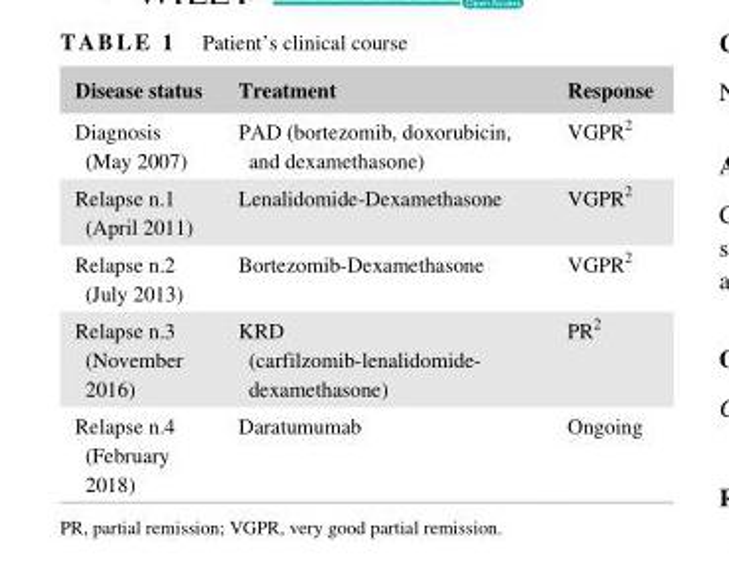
<table><thead><tr><td>Disease status</td><td>Treatment</td><td>Response</td></tr></thead><tbody><tr><td>Diagnosis (May 2007)</td><td>PAD (bortezomib, doxorubicin, and dexamethasone)</td><td>VGPR<sup>2</sup></td></tr><tr><td>Relapse n.1 (April 2011)</td><td>Lenalidomide- Dexamethasone</td><td>VGPR<sup>2</sup></td></tr><tr><td>Relapse n.2 (July 2013)</td><td>Bortezomib- Dexamethasone</td><td>VGPR<sup>2</sup></td></tr><tr><td>Relapse n.3 (November 2016)</td><td>KRD (carfilzomib- lenalidomide- dexamethasone)</td><td>PR<sup>2</sup></td></tr><tr><td>Relapse n.4 (February 2018)</td><td>Daratumumab</td><td>Ongoing</td></tr></tbody></table>